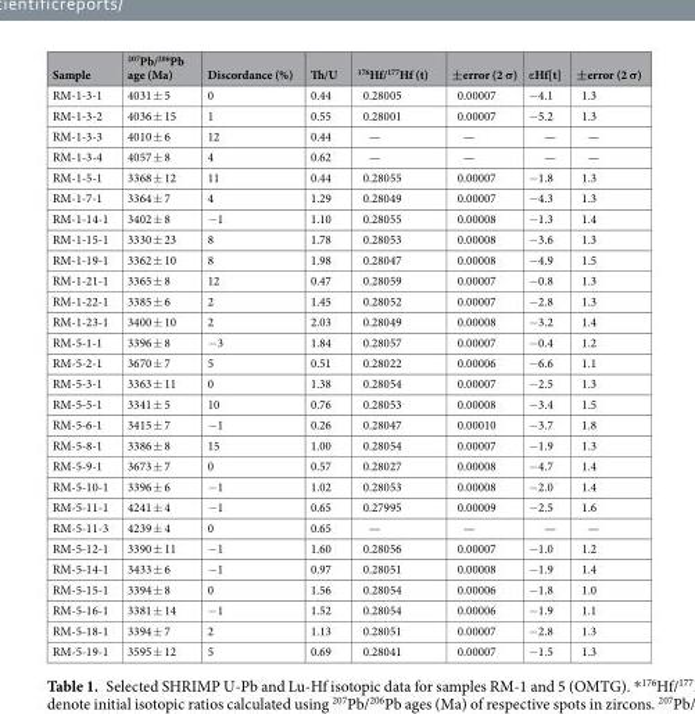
<table><thead><tr><td>Sample</td><td><sup>207</sup>Pb/<sup>206</sup>Pb age (Ma)</td><td>Discordance (%)</td><td>Th/U</td><td><sup>176</sup>Hf/<sup>177</sup>Hf (t)</td><td>±error (2 σ)</td><td>εHf[t]</td><td>±error (2 σ)</td></tr></thead><tbody><tr><td>RM-1-3-1</td><td>4031 ± 5</td><td>0</td><td>0.44</td><td>0.28005</td><td>0.00007</td><td>−4.1</td><td>1.3</td></tr><tr><td>RM-1-3-2</td><td>4036 ± 15</td><td>1</td><td>0.55</td><td>0.28001</td><td>0.00007</td><td>−5.2</td><td>1.3</td></tr><tr><td>RM-1-3-3</td><td>4010 ± 6</td><td>12</td><td>0.44</td><td>—</td><td>—</td><td>—</td><td>—</td></tr><tr><td>RM-1-3-4</td><td>4057 ± 8</td><td>4</td><td>0.62</td><td>—</td><td>—</td><td>—</td><td>—</td></tr><tr><td>RM-1-5-1</td><td>3368 ± 12</td><td>11</td><td>0.44</td><td>0.28055</td><td>0.00007</td><td>−1.8</td><td>1.3</td></tr><tr><td>RM-1-7-1</td><td>3364 ± 7</td><td>4</td><td>1.29</td><td>0.28049</td><td>0.00007</td><td>−4.3</td><td>1.3</td></tr><tr><td>RM-1-14-1</td><td>3402 ± 8</td><td>−1</td><td>1.10</td><td>0.28055</td><td>0.00008</td><td>−1.3</td><td>1.4</td></tr><tr><td>RM-1-15-1</td><td>3330 ± 23</td><td>8</td><td>1.78</td><td>0.28053</td><td>0.00008</td><td>−3.6</td><td>1.3</td></tr><tr><td>RM-1-19-1</td><td>3362 ± 10</td><td>8</td><td>1.98</td><td>0.28047</td><td>0.00008</td><td>−4.9</td><td>1.5</td></tr><tr><td>RM-1-21-1</td><td>3365 ± 8</td><td>12</td><td>0.47</td><td>0.28059</td><td>0.00007</td><td>−0.8</td><td>1.3</td></tr><tr><td>RM-1-22-1</td><td>3385 ± 6</td><td>2</td><td>1.45</td><td>0.28052</td><td>0.00007</td><td>−2.8</td><td>1.3</td></tr><tr><td>RM-1-23-1</td><td>3400 ± 10</td><td>2</td><td>2.03</td><td>0.28049</td><td>0.00008</td><td>−3.2</td><td>1.4</td></tr><tr><td>RM-5-1-1</td><td>3396 ± 8</td><td>−3</td><td>1.84</td><td>0.28057</td><td>0.00007</td><td>−0.4</td><td>1.2</td></tr><tr><td>RM-5-2-1</td><td>3670 ± 7</td><td>5</td><td>0.51</td><td>0.28022</td><td>0.00006</td><td>−6.6</td><td>1.1</td></tr><tr><td>RM-5-3-1</td><td>3363 ± 11</td><td>0</td><td>1.38</td><td>0.28054</td><td>0.00007</td><td>−2.5</td><td>1.3</td></tr><tr><td>RM-5-5-1</td><td>3341 ± 5</td><td>10</td><td>0.76</td><td>0.28053</td><td>0.00008</td><td>−3.4</td><td>1.5</td></tr><tr><td>RM-5-6-1</td><td>3415 ± 7</td><td>−1</td><td>0.26</td><td>0.28047</td><td>0.00010</td><td>−3.7</td><td>1.8</td></tr><tr><td>RM-5-8-1</td><td>3386 ± 8</td><td>15</td><td>1.00</td><td>0.28054</td><td>0.00007</td><td>−1.9</td><td>1.3</td></tr><tr><td>RM-5-9-1</td><td>3673 ± 7</td><td>0</td><td>0.57</td><td>0.28027</td><td>0.00008</td><td>−4.7</td><td>1.4</td></tr><tr><td>RM-5-10-1</td><td>3396 ± 6</td><td>−1</td><td>1.02</td><td>0.28053</td><td>0.00008</td><td>−2.0</td><td>1.4</td></tr><tr><td>RM-5-11-1</td><td>4241 ± 4</td><td>−1</td><td>0.65</td><td>0.27995</td><td>0.00009</td><td>−2.5</td><td>1.6</td></tr><tr><td>RM-5-11-3</td><td>4239 ± 4</td><td>0</td><td>0.65</td><td>—</td><td>—</td><td>—</td><td>—</td></tr><tr><td>RM-5-12-1</td><td>3390 ± 11</td><td>−1</td><td>1.60</td><td>0.28056</td><td>0.00007</td><td>−1.0</td><td>1.2</td></tr><tr><td>RM-5-14-1</td><td>3433 ± 6</td><td>−1</td><td>0.97</td><td>0.28051</td><td>0.00008</td><td>−1.9</td><td>1.4</td></tr><tr><td>RM-5-15-1</td><td>3394 ± 8</td><td>0</td><td>1.56</td><td>0.28054</td><td>0.00006</td><td>−1.8</td><td>1.0</td></tr><tr><td>RM-5-16-1</td><td>3381 ± 14</td><td>−1</td><td>1.52</td><td>0.28054</td><td>0.00006</td><td>−1.9</td><td>1.1</td></tr><tr><td>RM-5-18-1</td><td>3394 ± 7</td><td>2</td><td>1.13</td><td>0.28051</td><td>0.00007</td><td>−2.8</td><td>1.3</td></tr><tr><td>RM-5-19-1</td><td>3595 ± 12</td><td>5</td><td>0.69</td><td>0.28041</td><td>0.00007</td><td>−1.5</td><td>1.3</td></tr></tbody></table>